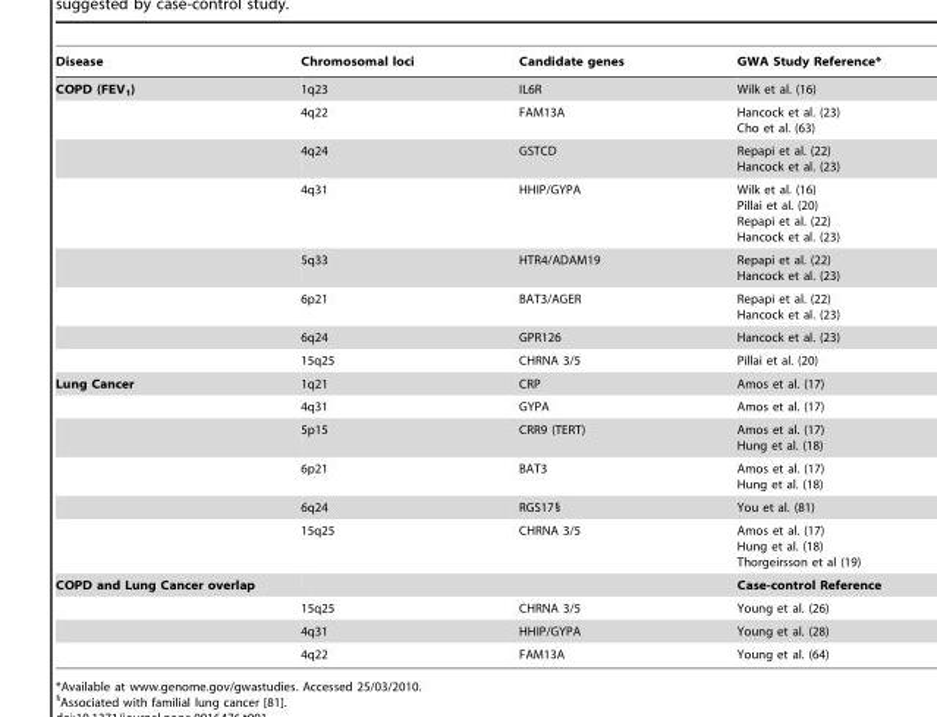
<table><thead><tr><td>Disease</td><td>Chromosomal loci</td><td>Candidate genes</td><td>GWA Study Reference*</td></tr></thead><tbody><tr><td rowspan="8">COPD (FEV<sub>1</sub>)</td><td>1q23</td><td>IL6R</td><td>Wilk et al. (16)</td></tr><tr><td>4q22</td><td>FAM13A</td><td>Hancock et al. (23) Cho et al. (63)</td></tr><tr><td>4q24</td><td>GSTCD</td><td>Repapi et al. (22) Hancock et al. (23)</td></tr><tr><td>4q31</td><td>HHIP/GYPA</td><td>Wilk et al. (16) Pillai et al. (20) Repapi et al. (22) Hancock et al. (23)</td></tr><tr><td>5q33</td><td>HTR4/ADAM19</td><td>Repapi et al. (22) Hancock et al. (23)</td></tr><tr><td>6p21</td><td>BAT3/AGER</td><td>Repapi et al. (22) Hancock et al. (23)</td></tr><tr><td>6q24</td><td>GPR126</td><td>Hancock et al. (23)</td></tr><tr><td>15q25</td><td>CHRNA 3/5</td><td>Pillai et al. (20)</td></tr><tr><td rowspan="6">Lung Cancer</td><td>1q21</td><td>CRP</td><td>Amos et al. (17)</td></tr><tr><td>4q31</td><td>GYPA</td><td>Amos et al. (17)</td></tr><tr><td>5p15</td><td>CRR9 (TERT)</td><td>Amos et al. (17) Hung et al. (18)</td></tr><tr><td>6p21</td><td>BAT3</td><td>Amos et al. (17) Hung et al. (18)</td></tr><tr><td>6q24</td><td>RGS17§</td><td>You et al. (81)</td></tr><tr><td>15q25</td><td>CHRNA 3/5</td><td>Amos et al. (17) Hung et al. (18) Thorgeirsson et al (19)</td></tr><tr><td rowspan="4">COPD and Lung Cancer overlap</td><td></td><td></td><td>Case-control Reference</td></tr><tr><td>15q25</td><td>CHRNA 3/5</td><td>Young et al. (26)</td></tr><tr><td>4q31</td><td>HHIP/GYPA</td><td>Young et al. (28)</td></tr><tr><td>4q22</td><td>FAM13A</td><td>Young et al. (64)</td></tr></tbody></table>